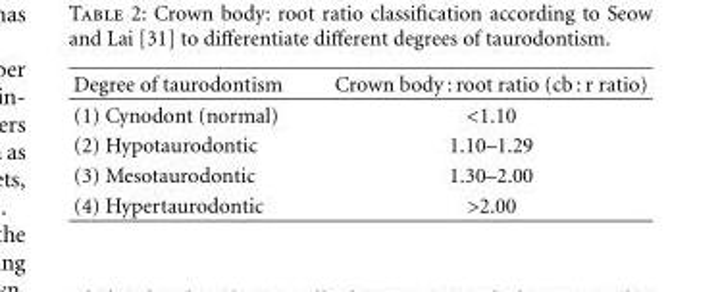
<table><thead><tr><td>Degree of taurodontism</td><td>Crown body : root ratio (cb : r ratio)</td></tr></thead><tbody><tr><td>(1) Cynodont (normal)</td><td>&lt;1.10</td></tr><tr><td>(2) Hypotaurodontic</td><td>1.10–1.29</td></tr><tr><td>(3) Mesotaurodontic</td><td>1.30–2.00</td></tr><tr><td>(4) Hypertaurodontic</td><td>&gt;2.00</td></tr></tbody></table>